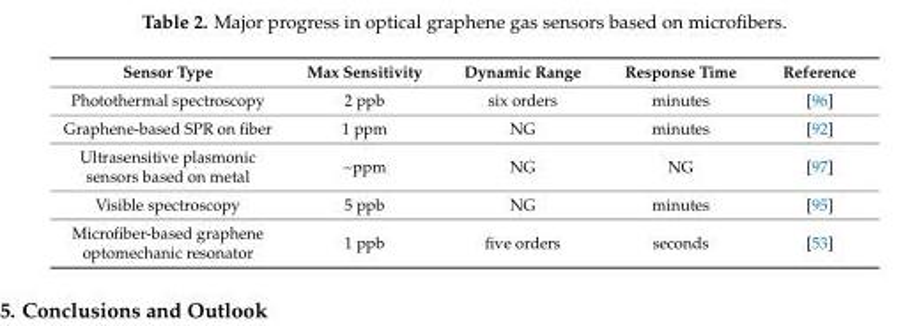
<table><thead><tr><td>Sensor Type</td><td>Max Sensitivity</td><td>Dynamic Range</td><td>Response Time</td><td>Reference</td></tr></thead><tbody><tr><td>Photothermal spectroscopy</td><td>2 ppb</td><td>six orders</td><td>minutes</td><td>[96]</td></tr><tr><td>Graphene-based SPR on fiber</td><td>1 ppm</td><td>NG</td><td>minutes</td><td>[92]</td></tr><tr><td>Ultrasensitive plasmonic sensors based on metal</td><td>~ppm</td><td>NG</td><td>NG</td><td>[97]</td></tr><tr><td>Visible spectroscopy</td><td>5 ppb</td><td>NG</td><td>minutes</td><td>[95]</td></tr><tr><td>Microfiber-based graphene optomechanic resonator</td><td>1 ppb</td><td>five orders</td><td>seconds</td><td>[53]</td></tr></tbody></table>